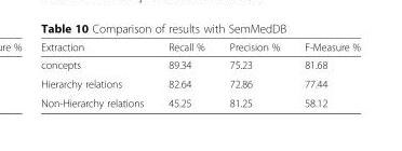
<table><thead><tr><td>Extraction</td><td>Recall %</td><td>Precision %</td><td>F-Measure %</td></tr></thead><tbody><tr><td>concepts</td><td>89.34</td><td>75.23</td><td>81.68</td></tr><tr><td>Hierarchy relations</td><td>82.64</td><td>72.86</td><td>77.44</td></tr><tr><td>Non-Hierarchy relations</td><td>45.25</td><td>81.25</td><td>58.12</td></tr></tbody></table>